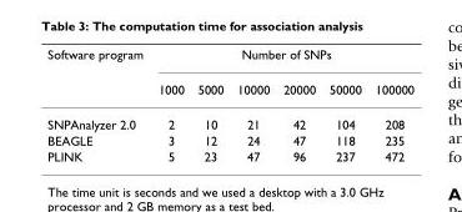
<table><thead><tr><td rowspan="2">Software program</td><td colspan="6">Number of SNPs</td></tr><tr><td>1000</td><td>5000</td><td>10000</td><td>20000</td><td>50000</td><td>100000</td></tr></thead><tbody><tr><td>SNPAnalyzer 2.0</td><td>2</td><td>10</td><td>21</td><td>42</td><td>104</td><td>208</td></tr><tr><td>BEAGLE</td><td>3</td><td>12</td><td>24</td><td>47</td><td>118</td><td>235</td></tr><tr><td>PLINK</td><td>5</td><td>23</td><td>47</td><td>96</td><td>237</td><td>472</td></tr></tbody></table>